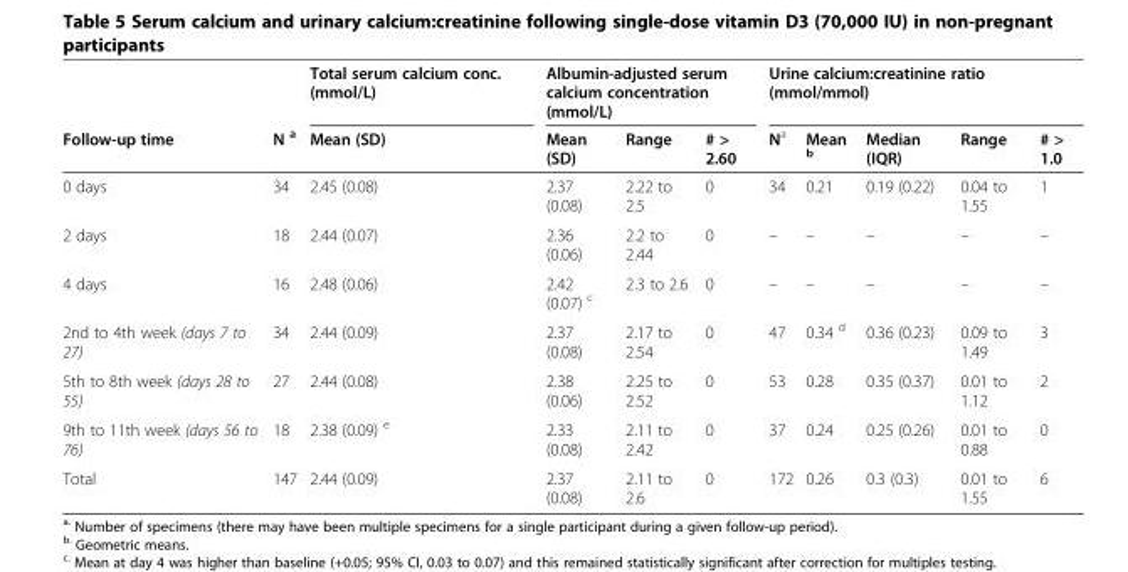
<table><thead><tr><td rowspan="2">Follow-up time</td><td rowspan="2">N a</td><td rowspan="2">Total serum calcium conc. (mmol/L) Mean (SD)</td><td colspan="3">Albumin-adjusted serum calcium concentration (mmol/L)</td><td colspan="5">Urine calcium:creatinine ratio (mmol/mmol)</td></tr><tr><td>Mean (SD)</td><td>Range</td><td># &gt; 2.60</td><td>N<sup>a</sup></td><td>Mean <sup>b</sup></td><td>Median (IQR)</td><td>Range</td><td># &gt; 1.0</td></tr></thead><tbody><tr><td>0 days</td><td>34</td><td>2.45 (0.08)</td><td>2.37 (0.08)</td><td>2.22 to 2.5</td><td>0</td><td>34</td><td>0.21</td><td>0.19 (0.22)</td><td>0.04 to 1.55</td><td>1</td></tr><tr><td>2 days</td><td>18</td><td>2.44 (0.07)</td><td>2.36 (0.06)</td><td>2.2 to 2.44</td><td>0</td><td>–</td><td>–</td><td>–</td><td>–</td><td>–</td></tr><tr><td>4 days</td><td>16</td><td>2.48 (0.06)</td><td>2.42 (0.07) <sup>c</sup></td><td>2.3 to 2.6</td><td>0</td><td>–</td><td>–</td><td>–</td><td>–</td><td>–</td></tr><tr><td>2nd to 4th week (days 7 to 27)</td><td>34</td><td>2.44 (0.09)</td><td>2.37 (0.08)</td><td>2.17 to 2.54</td><td>0</td><td>47</td><td>0.34 <sup>d</sup></td><td>0.36 (0.23)</td><td>0.09 to 1.49</td><td>3</td></tr><tr><td>5th to 8th week (days 28 to 55)</td><td>27</td><td>2.44 (0.08)</td><td>2.38 (0.06)</td><td>2.25 to 2.52</td><td>0</td><td>53</td><td>0.28</td><td>0.35 (0.37)</td><td>0.01 to 1.12</td><td>2</td></tr><tr><td>9th to 11th week (days 56 to 76)</td><td>18</td><td>2.38 (0.09) <sup>e</sup></td><td>2.33 (0.08)</td><td>2.11 to 2.42</td><td>0</td><td>37</td><td>0.24</td><td>0.25 (0.26)</td><td>0.01 to 0.88</td><td>0</td></tr><tr><td>Total</td><td>147</td><td>2.44 (0.09)</td><td>2.37 (0.08)</td><td>2.11 to 2.6</td><td>0</td><td>172</td><td>0.26</td><td>0.3 (0.3)</td><td>0.01 to 1.55</td><td>6</td></tr></tbody></table>